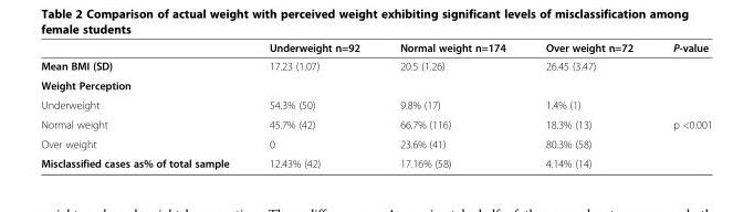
<table><thead><tr><td></td><td>Underweight n=92</td><td>Normal weight n=174</td><td>Over weight n=72</td><td>P-value</td></tr></thead><tbody><tr><td>Mean BMI (SD)</td><td>17.23 (1.07)</td><td>20.5 (1.26)</td><td>26.45 (3.47)</td><td></td></tr><tr><td colspan="5">Weight Perception</td></tr><tr><td>Underweight</td><td>54.3% (50)</td><td>9.8% (17)</td><td>1.4% (1)</td><td></td></tr><tr><td>Normal weight</td><td>45.7% (42)</td><td>66.7% (116)</td><td>18.3% (13)</td><td rowspan="2">p &lt;0.001</td></tr><tr><td>Over weight</td><td>0</td><td>23.6% (41)</td><td>80.3% (58)</td></tr><tr><td>Misclassified cases as% of total sample</td><td>12.43% (42)</td><td>17.16% (58)</td><td>4.14% (14)</td><td></td></tr></tbody></table>